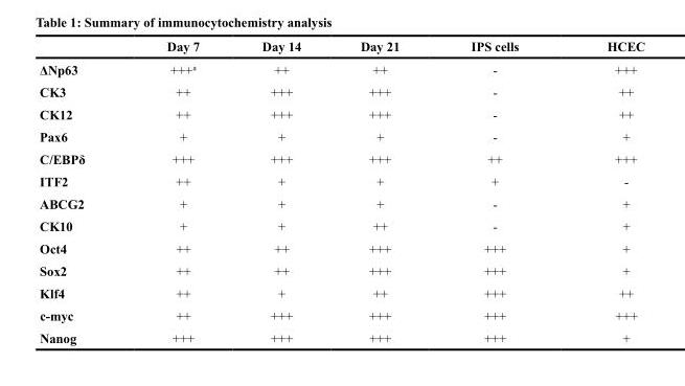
<table><thead><tr><td></td><td>Day 7</td><td>Day 14</td><td>Day 21</td><td>IPS cells</td><td>HCEC</td></tr></thead><tbody><tr><td>ΔNp63</td><td>+++<sup>a</sup></td><td>++</td><td>++</td><td>-</td><td>+++</td></tr><tr><td>CK3</td><td>++</td><td>+++</td><td>+++</td><td>-</td><td>++</td></tr><tr><td>CK12</td><td>++</td><td>+++</td><td>+++</td><td>-</td><td>++</td></tr><tr><td>Pax6</td><td>+</td><td>+</td><td>+</td><td>-</td><td>+</td></tr><tr><td>C/EBPδ</td><td>+++</td><td>+++</td><td>+++</td><td>++</td><td>+++</td></tr><tr><td>ITF2</td><td>++</td><td>+</td><td>+</td><td>+</td><td>-</td></tr><tr><td>ABCG2</td><td>+</td><td>+</td><td>+</td><td>-</td><td>+</td></tr><tr><td>CK10</td><td>+</td><td>+</td><td>++</td><td>-</td><td>+</td></tr><tr><td>Oct4</td><td>++</td><td>++</td><td>+++</td><td>+++</td><td>+</td></tr><tr><td>Sox2</td><td>++</td><td>++</td><td>+++</td><td>+++</td><td>+</td></tr><tr><td>Klf4</td><td>++</td><td>+</td><td>++</td><td>+++</td><td>++</td></tr><tr><td>c-myc</td><td>++</td><td>+++</td><td>+++</td><td>+++</td><td>+++</td></tr><tr><td>Nanog</td><td>+++</td><td>+++</td><td>+++</td><td>+++</td><td>+</td></tr></tbody></table>